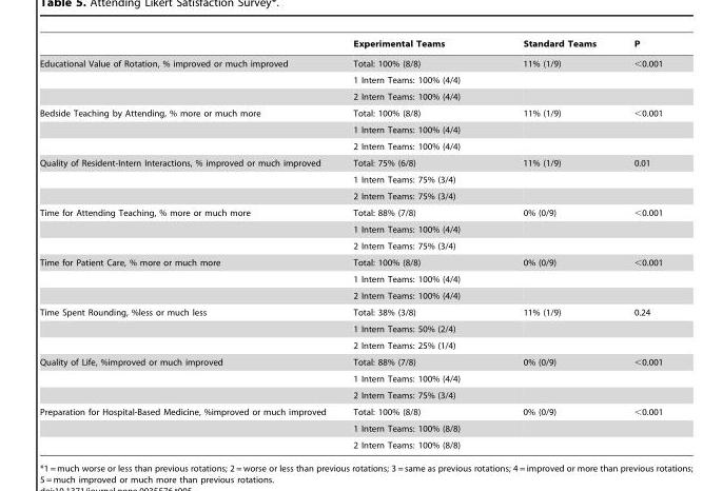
<table><thead><tr><td></td><td>Experimental Teams</td><td>Standard Teams</td><td>P</td></tr></thead><tbody><tr><td rowspan="3">Educational Value of Rotation, % improved or much improved</td><td>Total: 100% (8/8)</td><td>11% (1/9)</td><td>&lt;0.001</td></tr><tr><td>1 Intern Teams: 100% (4/4)</td><td></td><td></td></tr><tr><td>2 Intern Teams: 100% (4/4)</td><td></td><td></td></tr><tr><td rowspan="3">Bedside Teaching by Attending, % more or much more</td><td>Total: 100% (8/8)</td><td>11% (1/9)</td><td>&lt;0.001</td></tr><tr><td>1 Intern Teams: 100% (4/4)</td><td></td><td></td></tr><tr><td>2 Intern Teams: 100% (4/4)</td><td></td><td></td></tr><tr><td rowspan="3">Quality of Resident-Intern Interactions, % improved or much improved</td><td>Total: 75% (6/8)</td><td>11% (1/9)</td><td>0.01</td></tr><tr><td>1 Intern Teams: 75% (3/4)</td><td></td><td></td></tr><tr><td>2 Intern Teams: 75% (3/4)</td><td></td><td></td></tr><tr><td rowspan="3">Time for Attending Teaching, % more or much more</td><td>Total: 88% (7/8)</td><td>0% (0/9)</td><td>&lt;0.001</td></tr><tr><td>1 Intern Teams: 100% (4/4)</td><td></td><td></td></tr><tr><td>2 Intern Teams: 75% (3/4)</td><td></td><td></td></tr><tr><td rowspan="3">Time for Patient Care, % more or much more</td><td>Total: 100% (8/8)</td><td>0% (0/9)</td><td>&lt;0.001</td></tr><tr><td>1 Intern Teams: 100% (4/4)</td><td></td><td></td></tr><tr><td>2 Intern Teams: 100% (4/4)</td><td></td><td></td></tr><tr><td rowspan="3">Time Spent Rounding, %less or much less</td><td>Total: 38% (3/8)</td><td>11% (1/9)</td><td>0.24</td></tr><tr><td>1 Intern Teams: 50% (2/4)</td><td></td><td></td></tr><tr><td>2 Intern Teams: 25% (1/4)</td><td></td><td></td></tr><tr><td rowspan="3">Quality of Life, %improved or much improved</td><td>Total: 88% (7/8)</td><td>0% (0/9)</td><td>&lt;0.001</td></tr><tr><td>1 Intern Teams: 100% (4/4)</td><td></td><td></td></tr><tr><td>2 Intern Teams: 75% (3/4)</td><td></td><td></td></tr><tr><td rowspan="3">Preparation for Hospital-Based Medicine, %improved or much improved</td><td>Total: 100% (8/8)</td><td>0% (0/9)</td><td>&lt;0.001</td></tr><tr><td>1 Intern Teams: 100% (8/8)</td><td></td><td></td></tr><tr><td>2 Intern Teams: 100% (8/8)</td><td></td><td></td></tr></tbody></table>